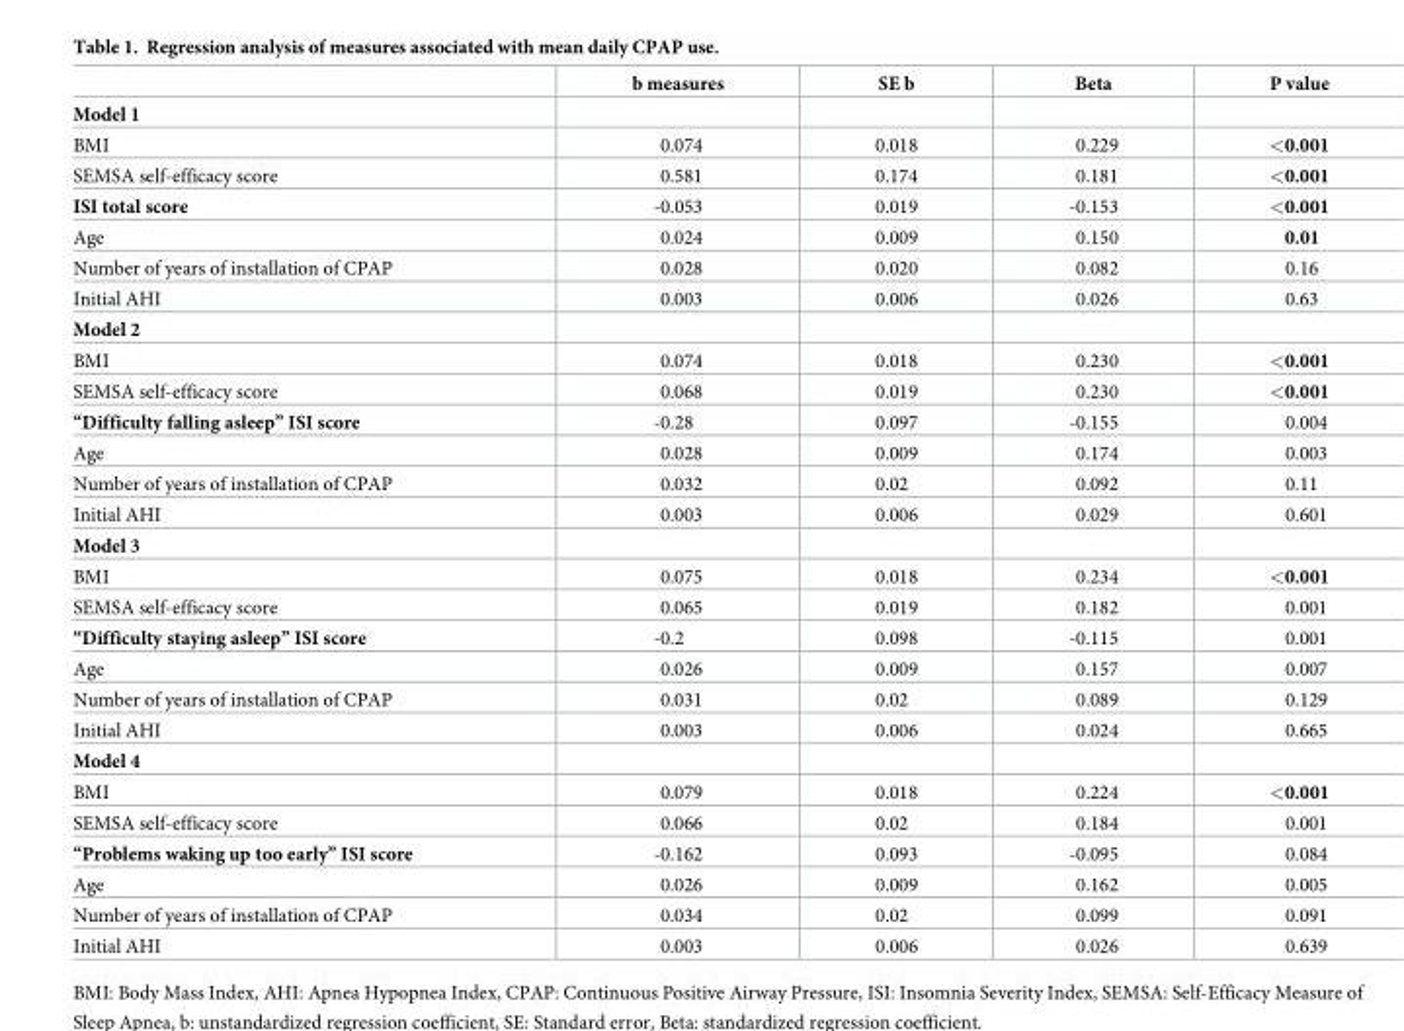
<table><thead><tr><td></td><td>b measures</td><td>SE b</td><td>Beta</td><td>P value</td></tr></thead><tbody><tr><td colspan="5">Model 1</td></tr><tr><td>BMI</td><td>0.074</td><td>0.018</td><td>0.229</td><td>&lt;0.001</td></tr><tr><td>SEMSA self-efficacy score</td><td>0.581</td><td>0.174</td><td>0.181</td><td>&lt;0.001</td></tr><tr><td>ISI total score</td><td>-0.053</td><td>0.019</td><td>-0.153</td><td>&lt;0.001</td></tr><tr><td>Age</td><td>0.024</td><td>0.009</td><td>0.150</td><td>0.01</td></tr><tr><td>Number of years of installation of CPAP</td><td>0.028</td><td>0.020</td><td>0.082</td><td>0.16</td></tr><tr><td>Initial AHI</td><td>0.003</td><td>0.006</td><td>0.026</td><td>0.63</td></tr><tr><td colspan="5">Model 2</td></tr><tr><td>BMI</td><td>0.074</td><td>0.018</td><td>0.230</td><td>&lt;0.001</td></tr><tr><td>SEMSA self-efficacy score</td><td>0.068</td><td>0.019</td><td>0.230</td><td>&lt;0.001</td></tr><tr><td>“Difficulty falling asleep” ISI score</td><td>-0.28</td><td>0.097</td><td>-0.155</td><td>0.004</td></tr><tr><td>Age</td><td>0.028</td><td>0.009</td><td>0.174</td><td>0.003</td></tr><tr><td>Number of years of installation of CPAP</td><td>0.032</td><td>0.02</td><td>0.092</td><td>0.11</td></tr><tr><td>Initial AHI</td><td>0.003</td><td>0.006</td><td>0.029</td><td>0.601</td></tr><tr><td colspan="5">Model 3</td></tr><tr><td>BMI</td><td>0.075</td><td>0.018</td><td>0.234</td><td>&lt;0.001</td></tr><tr><td>SEMSA self-efficacy score</td><td>0.065</td><td>0.019</td><td>0.182</td><td>0.001</td></tr><tr><td>“Difficulty staying asleep” ISI score</td><td>-0.2</td><td>0.098</td><td>-0.115</td><td>0.001</td></tr><tr><td>Age</td><td>0.026</td><td>0.009</td><td>0.157</td><td>0.007</td></tr><tr><td>Number of years of installation of CPAP</td><td>0.031</td><td>0.02</td><td>0.089</td><td>0.129</td></tr><tr><td>Initial AHI</td><td>0.003</td><td>0.006</td><td>0.024</td><td>0.665</td></tr><tr><td colspan="5">Model 4</td></tr><tr><td>BMI</td><td>0.079</td><td>0.018</td><td>0.224</td><td>&lt;0.001</td></tr><tr><td>SEMSA self-efficacy score</td><td>0.066</td><td>0.02</td><td>0.184</td><td>0.001</td></tr><tr><td>“Problems waking up too early” ISI score</td><td>-0.162</td><td>0.093</td><td>-0.095</td><td>0.084</td></tr><tr><td>Age</td><td>0.026</td><td>0.009</td><td>0.162</td><td>0.005</td></tr><tr><td>Number of years of installation of CPAP</td><td>0.034</td><td>0.02</td><td>0.099</td><td>0.091</td></tr><tr><td>Initial AHI</td><td>0.003</td><td>0.006</td><td>0.026</td><td>0.639</td></tr></tbody></table>